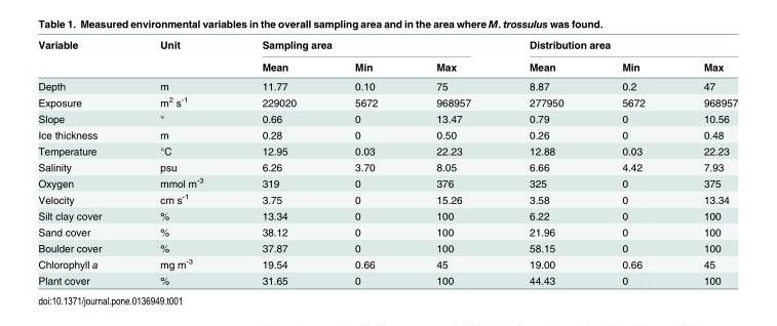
<table><thead><tr><td rowspan="2">Variable</td><td rowspan="2">Unit</td><td colspan="3">Sampling area</td><td colspan="3">Distribution area</td></tr><tr><td>Mean</td><td>Min</td><td>Max</td><td>Mean</td><td>Min</td><td>Max</td></tr></thead><tbody><tr><td>Depth</td><td>m</td><td>11.77</td><td>0.10</td><td>75</td><td>8.87</td><td>0.2</td><td>47</td></tr><tr><td>Exposure</td><td>m<sup>2</sup> s<sup>-1</sup></td><td>229020</td><td>5672</td><td>968957</td><td>277950</td><td>5672</td><td>968957</td></tr><tr><td>Slope</td><td>°</td><td>0.66</td><td>0</td><td>13.47</td><td>0.79</td><td>0</td><td>10.56</td></tr><tr><td>Ice thickness</td><td>m</td><td>0.28</td><td>0</td><td>0.50</td><td>0.26</td><td>0</td><td>0.48</td></tr><tr><td>Temperature</td><td>°C</td><td>12.95</td><td>0.03</td><td>22.23</td><td>12.88</td><td>0.03</td><td>22.23</td></tr><tr><td>Salinity</td><td>psu</td><td>6.26</td><td>3.70</td><td>8.05</td><td>6.66</td><td>4.42</td><td>7.93</td></tr><tr><td>Oxygen</td><td>mmol m<sup>-3</sup></td><td>319</td><td>0</td><td>376</td><td>325</td><td>0</td><td>375</td></tr><tr><td>Velocity</td><td>cm s<sup>-1</sup></td><td>3.75</td><td>0</td><td>15.26</td><td>3.58</td><td>0</td><td>13.34</td></tr><tr><td>Silt clay cover</td><td>%</td><td>13.34</td><td>0</td><td>100</td><td>6.22</td><td>0</td><td>100</td></tr><tr><td>Sand cover</td><td>%</td><td>38.12</td><td>0</td><td>100</td><td>21.96</td><td>0</td><td>100</td></tr><tr><td>Boulder cover</td><td>%</td><td>37.87</td><td>0</td><td>100</td><td>58.15</td><td>0</td><td>100</td></tr><tr><td>Chlorophyll a</td><td>mg m<sup>-3</sup></td><td>19.54</td><td>0.66</td><td>45</td><td>19.00</td><td>0.66</td><td>45</td></tr><tr><td>Plant cover</td><td>%</td><td>31.65</td><td>0</td><td>100</td><td>44.43</td><td>0</td><td>100</td></tr></tbody></table>